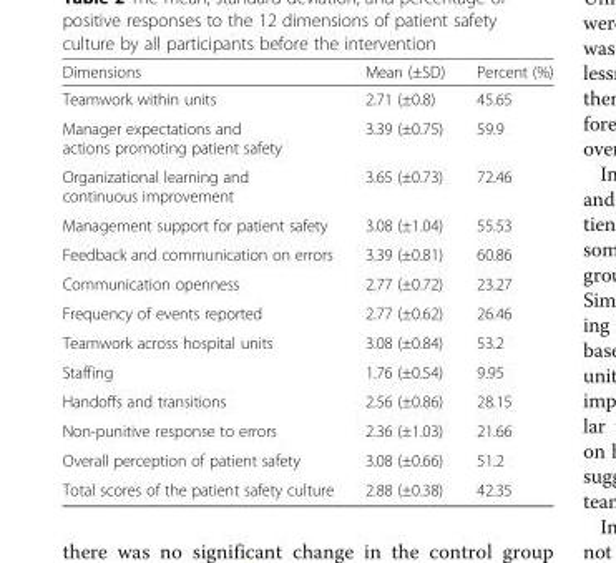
<table><thead><tr><td>Dimensions</td><td>Mean (±SD)</td><td>Percent (%)</td></tr></thead><tbody><tr><td>Teamwork within units</td><td>2.71 (±0.8)</td><td>45.65</td></tr><tr><td>Manager expectations and actions promoting patient safety</td><td>3.39 (±0.75)</td><td>59.9</td></tr><tr><td>Organizational learning and continuous improvement</td><td>3.65 (±0.73)</td><td>72.46</td></tr><tr><td>Management support for patient safety</td><td>3.08 (±1.04)</td><td>55.53</td></tr><tr><td>Feedback and communication on errors</td><td>3.39 (±0.81)</td><td>60.86</td></tr><tr><td>Communication openness</td><td>2.77 (±0.72)</td><td>23.27</td></tr><tr><td>Frequency of events reported</td><td>2.77 (±0.62)</td><td>26.46</td></tr><tr><td>Teamwork across hospital units</td><td>3.08 (±0.84)</td><td>53.2</td></tr><tr><td>Staffing</td><td>1.76 (±0.54)</td><td>9.95</td></tr><tr><td>Handoffs and transitions</td><td>2.56 (±0.86)</td><td>28.15</td></tr><tr><td>Non-punitive response to errors</td><td>2.36 (±1.03)</td><td>21.66</td></tr><tr><td>Overall perception of patient safety</td><td>3.08 (±0.66)</td><td>51.2</td></tr><tr><td>Total scores of the patient safety culture</td><td>2.88 (±0.38)</td><td>42.35</td></tr></tbody></table>